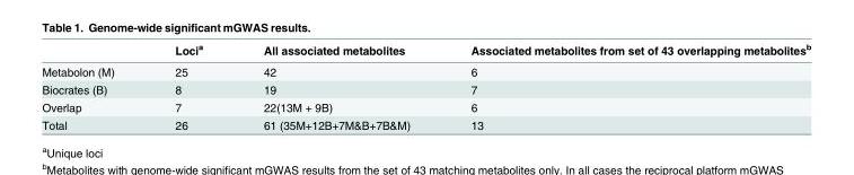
<table><thead><tr><td></td><td>Loci<sup>a</sup></td><td>All associated metabolites</td><td>Associated metabolites from set of 43 overlapping metabolites<sup>b</sup></td></tr></thead><tbody><tr><td>Metabolon (M)</td><td>25</td><td>42</td><td>6</td></tr><tr><td>Biocrates (B)</td><td>8</td><td>19</td><td>7</td></tr><tr><td>Overlap</td><td>7</td><td>22(13M + 9B)</td><td>6</td></tr><tr><td>Total</td><td>26</td><td>61 (35M+12B+7M&amp;B+7B&amp;M)</td><td>13</td></tr></tbody></table>